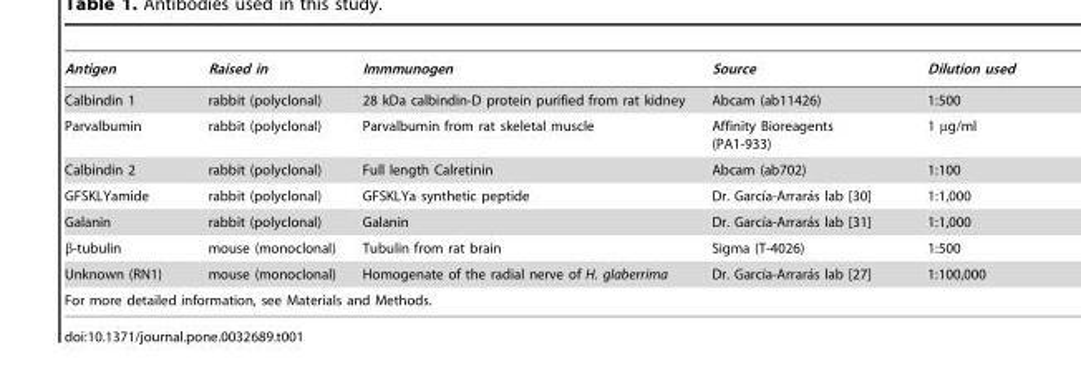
<table><thead><tr><td>Antigen</td><td>Raised in</td><td>Immmunogen</td><td>Source</td><td>Dilution used</td></tr></thead><tbody><tr><td>Calbindin 1</td><td>rabbit (polyclonal)</td><td>28 kDa calbindin-D protein purified from rat kidney</td><td>Abcam (ab11426)</td><td>1:500</td></tr><tr><td>Parvalbumin</td><td>rabbit (polyclonal)</td><td>Parvalbumin from rat skeletal muscle</td><td>Affinity Bioreagents (PA1-933)</td><td>1 µg/ml</td></tr><tr><td>Calbindin 2</td><td>rabbit (polyclonal)</td><td>Full length Calretinin</td><td>Abcam (ab702)</td><td>1:100</td></tr><tr><td>GFSKLYamide</td><td>rabbit (polyclonal)</td><td>GFSKLYa synthetic peptide</td><td>Dr. Garcı´a-Arrara´s lab [30]</td><td>1:1,000</td></tr><tr><td>Galanin</td><td>rabbit (polyclonal)</td><td>Galanin</td><td>Dr. Garcı´a-Arrara´s lab [31]</td><td>1:1,000</td></tr><tr><td>β-tubulin</td><td>mouse (monoclonal)</td><td>Tubulin from rat brain</td><td>Sigma (T-4026)</td><td>1:500</td></tr><tr><td>Unknown (RN1)</td><td>mouse (monoclonal)</td><td>Homogenate of the radial nerve of H. glaberrima</td><td>Dr. Garcı´a-Arrara´s lab [27]</td><td>1:100,000</td></tr><tr><td colspan="5">For more detailed information, see Materials and Methods.</td></tr></tbody></table>